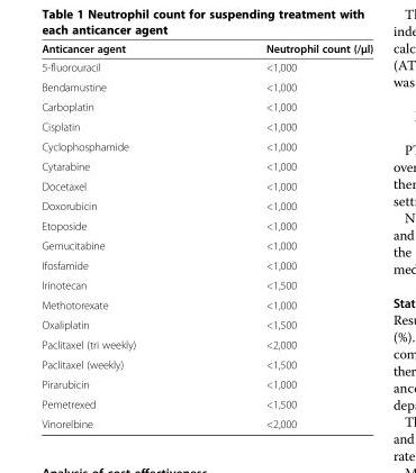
<table><thead><tr><td>Anticancer agent</td><td>Neutrophil count (/μl)</td></tr></thead><tbody><tr><td>5-fluorouracil</td><td>&lt;1,000</td></tr><tr><td>Bendamustine</td><td>&lt;1,000</td></tr><tr><td>Carboplatin</td><td>&lt;1,000</td></tr><tr><td>Cisplatin</td><td>&lt;1,000</td></tr><tr><td>Cyclophosphamide</td><td>&lt;1,000</td></tr><tr><td>Cytarabine</td><td>&lt;1,000</td></tr><tr><td>Docetaxel</td><td>&lt;1,000</td></tr><tr><td>Doxorubicin</td><td>&lt;1,000</td></tr><tr><td>Etoposide</td><td>&lt;1,000</td></tr><tr><td>Gemucitabine</td><td>&lt;1,000</td></tr><tr><td>Ifosfamide</td><td>&lt;1,000</td></tr><tr><td>Irinotecan</td><td>&lt;1,500</td></tr><tr><td>Methotorexate</td><td>&lt;1,000</td></tr><tr><td>Oxaliplatin</td><td>&lt;1,500</td></tr><tr><td>Paclitaxel (tri weekly)</td><td>&lt;2,000</td></tr><tr><td>Paclitaxel (weekly)</td><td>&lt;1,500</td></tr><tr><td>Pirarubicin</td><td>&lt;1,000</td></tr><tr><td>Pemetrexed</td><td>&lt;1,500</td></tr><tr><td>Vinorelbine</td><td>&lt;2,000</td></tr></tbody></table>